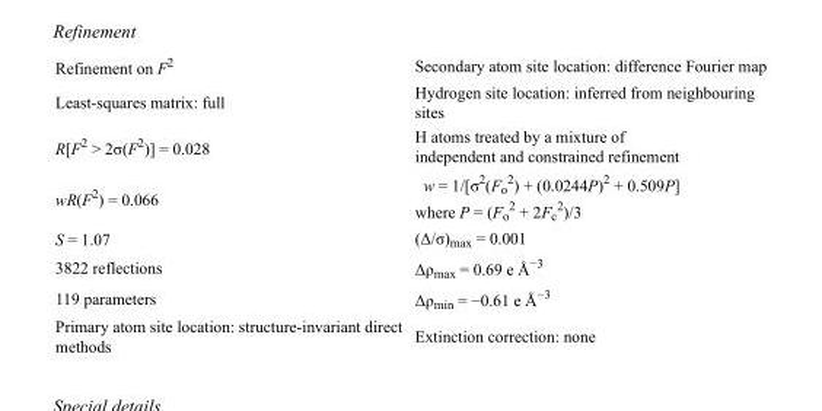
<table><tbody><tr><td>Refinement on F<sup>2</sup></td><td>Secondary atom site location: difference Fourier map</td></tr><tr><td>Least-squares matrix: full</td><td>Hydrogen site location: inferred from neighbouring sites</td></tr><tr><td>R[F<sup>2</sup> &gt; 2σ(F<sup>2</sup>)] = 0.028</td><td>H atoms treated by a mixture of independent and constrained refinement</td></tr><tr><td>wR(F<sup>2</sup>) = 0.066</td><td>w = 1/[σ<sup>2</sup>(F<sub>o</sub> <sup>2</sup>) + (0.0244P)<sup>2</sup> + 0.509P] where P = (F<sub>o</sub> <sup>2</sup> + 2F<sub>c</sub> <sup>2</sup>)/3</td></tr><tr><td>S = 1.07</td><td>(Δ/σ)<sub>max</sub> = 0.001</td></tr><tr><td>3822 reflections</td><td>Δρ<sub>max</sub> = 0.69 e Å<sup>−3</sup></td></tr><tr><td>119 parameters</td><td>Δρ<sub>min</sub> = −0.61 e Å<sup>−3</sup></td></tr><tr><td>Primary atom site location: structure-invariant direct methods</td><td>Extinction correction: none</td></tr></tbody></table>